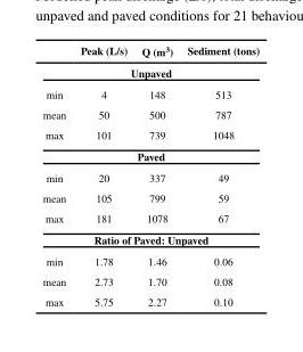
<table><thead><tr><td></td><td>Peak (L/s)</td><td>Q (m<sup>3</sup>)</td><td>Sediment (tons)</td></tr></thead><tbody><tr><td colspan="4">Unpaved</td></tr><tr><td>min</td><td>4</td><td>148</td><td>513</td></tr><tr><td>mean</td><td>50</td><td>500</td><td>787</td></tr><tr><td>max</td><td>101</td><td>739</td><td>1048</td></tr><tr><td colspan="4">Paved</td></tr><tr><td>min</td><td>20</td><td>337</td><td>49</td></tr><tr><td>mean</td><td>105</td><td>799</td><td>59</td></tr><tr><td>max</td><td>181</td><td>1078</td><td>67</td></tr><tr><td colspan="4">Ratio of Paved: Unpaved</td></tr><tr><td>min</td><td>1.78</td><td>1.46</td><td>0.06</td></tr><tr><td>mean</td><td>2.73</td><td>1.70</td><td>0.08</td></tr><tr><td>max</td><td>5.75</td><td>2.27</td><td>0.10</td></tr></tbody></table>